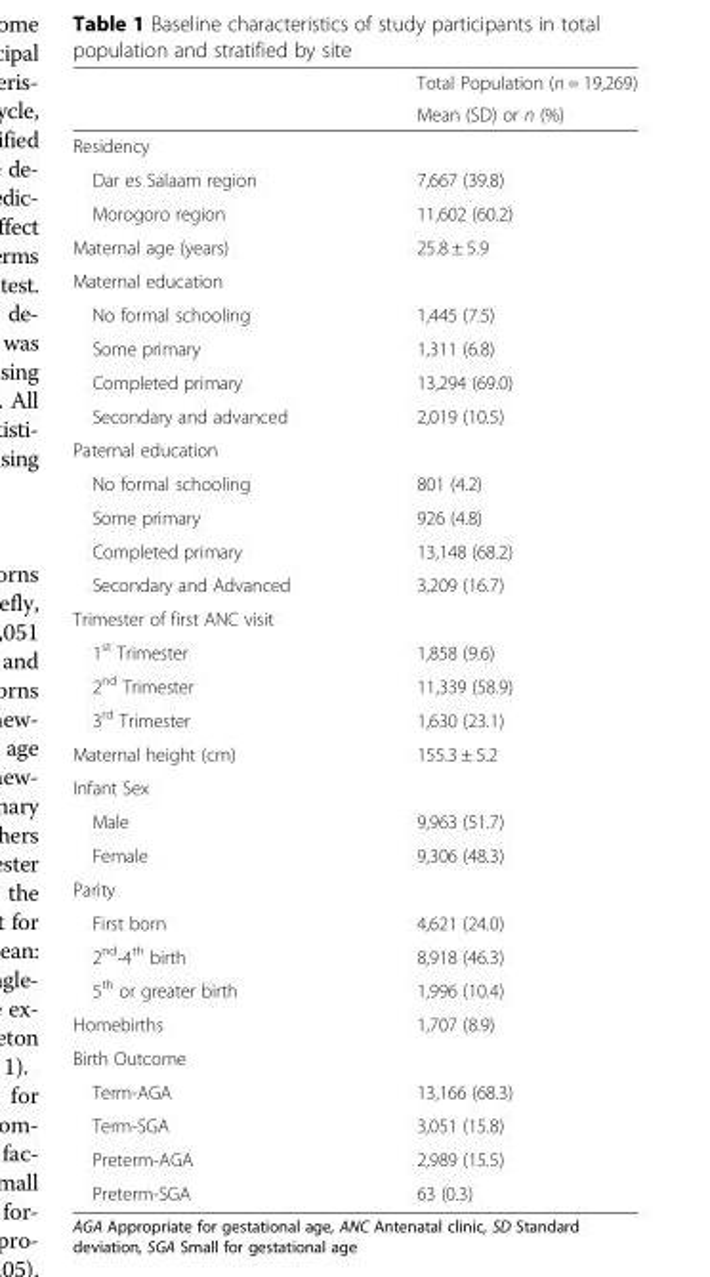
<table><thead><tr><td rowspan="2"></td><td rowspan="2">Total Population (n = 19,269) Mean (SD) or n (%)</td></tr><tr></tr></thead><tbody><tr><td colspan="2">Residency</td></tr><tr><td>Dar es Salaam region</td><td>7,667 (39.8)</td></tr><tr><td>Morogoro region</td><td>11,602 (60.2)</td></tr><tr><td>Maternal age (years)</td><td>25.8 ± 5.9</td></tr><tr><td colspan="2">Maternal education</td></tr><tr><td>No formal schooling</td><td>1,445 (7.5)</td></tr><tr><td>Some primary</td><td>1,311 (6.8)</td></tr><tr><td>Completed primary</td><td>13,294 (69.0)</td></tr><tr><td>Secondary and advanced</td><td>2,019 (10.5)</td></tr><tr><td colspan="2">Paternal education</td></tr><tr><td>No formal schooling</td><td>801 (4.2)</td></tr><tr><td>Some primary</td><td>926 (4.8)</td></tr><tr><td>Completed primary</td><td>13,148 (68.2)</td></tr><tr><td>Secondary and Advanced</td><td>3,209 (16.7)</td></tr><tr><td colspan="2">Trimester of first ANC visit</td></tr><tr><td>1<sup>st</sup> Trimester</td><td>1,858 (9.6)</td></tr><tr><td>2<sup>nd</sup> Trimester</td><td>11,339 (58.9)</td></tr><tr><td>3<sup>rd</sup> Trimester</td><td>1,630 (23.1)</td></tr><tr><td>Maternal height (cm)</td><td>155.3 ± 5.2</td></tr><tr><td colspan="2">Infant Sex</td></tr><tr><td>Male</td><td>9,963 (51.7)</td></tr><tr><td>Female</td><td>9,306 (48.3)</td></tr><tr><td colspan="2">Parity</td></tr><tr><td>First born</td><td>4,621 (24.0)</td></tr><tr><td>2<sup>nd</sup>-4<sup>th</sup> birth</td><td>8,918 (46.3)</td></tr><tr><td>5<sup>th</sup> or greater birth</td><td>1,996 (10.4)</td></tr><tr><td>Homebirths</td><td>1,707 (8.9)</td></tr><tr><td colspan="2">Birth Outcome</td></tr><tr><td>Term-AGA</td><td>13,166 (68.3)</td></tr><tr><td>Term-SGA</td><td>3,051 (15.8)</td></tr><tr><td>Preterm-AGA</td><td>2,989 (15.5)</td></tr><tr><td>Preterm-SGA</td><td>63 (0.3)</td></tr></tbody></table>